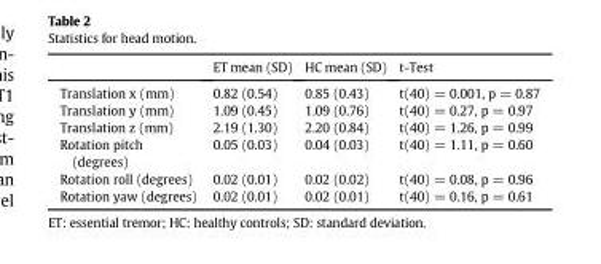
<table><thead><tr><td></td><td>ET mean (SD)</td><td>HC mean (SD)</td><td>t-Test</td></tr></thead><tbody><tr><td>Translation x (mm)</td><td>0.82 (0.54)</td><td>0.85 (0.43)</td><td>t(40) = 0.001, p = 0.87</td></tr><tr><td>Translation y (mm)</td><td>1.09 (0.45)</td><td>1.09 (0.76)</td><td>t(40) = 0.27, p = 0.97</td></tr><tr><td>Translation z (mm)</td><td>2.19 (1.30)</td><td>2.20 (0.84)</td><td>t(40) = 1.26, p = 0.99</td></tr><tr><td>Rotation pitch (degrees)</td><td>0.05 (0.03)</td><td>0.04 (0.03)</td><td>t(40) = 1.11, p = 0.60</td></tr><tr><td>Rotation roll (degrees)</td><td>0.02 (0.01)</td><td>0.02 (0.02)</td><td>t(40) = 0.08, p = 0.96</td></tr><tr><td>Rotation yaw (degrees)</td><td>0.02 (0.01)</td><td>0.02 (0.01)</td><td>t(40) = 0.16, p = 0.61</td></tr></tbody></table>